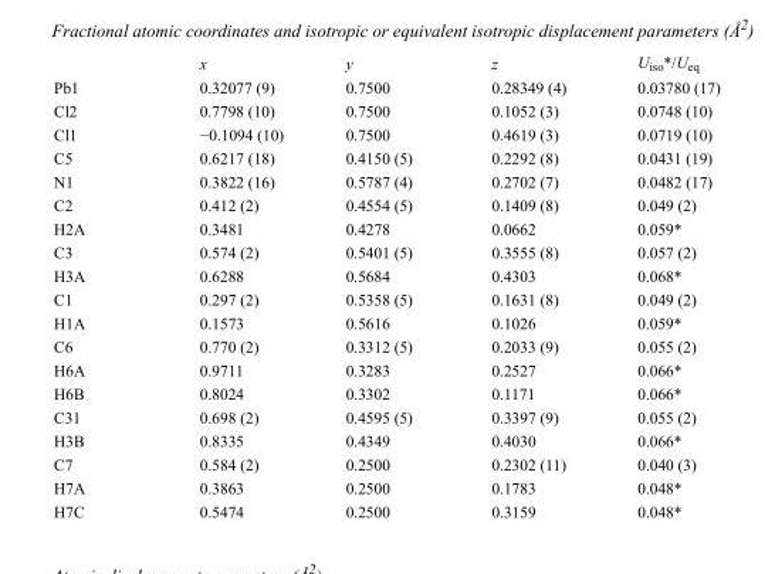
<table><thead><tr><td></td><td>x</td><td>y</td><td>z</td><td>U<sub>iso</sub>*/U<sub>eq</sub></td></tr></thead><tbody><tr><td>Pb1</td><td>0.32077 (9)</td><td>0.7500</td><td>0.28349 (4)</td><td>0.03780 (17)</td></tr><tr><td>Cl2</td><td>0.7798 (10)</td><td>0.7500</td><td>0.1052 (3)</td><td>0.0748 (10)</td></tr><tr><td>Cl1</td><td>−0.1094 (10)</td><td>0.7500</td><td>0.4619 (3)</td><td>0.0719 (10)</td></tr><tr><td>C5</td><td>0.6217 (18)</td><td>0.4150 (5)</td><td>0.2292 (8)</td><td>0.0431 (19)</td></tr><tr><td>N1</td><td>0.3822 (16)</td><td>0.5787 (4)</td><td>0.2702 (7)</td><td>0.0482 (17)</td></tr><tr><td>C2</td><td>0.412 (2)</td><td>0.4554 (5)</td><td>0.1409 (8)</td><td>0.049 (2)</td></tr><tr><td>H2A</td><td>0.3481</td><td>0.4278</td><td>0.0662</td><td>0.059*</td></tr><tr><td>C3</td><td>0.574 (2)</td><td>0.5401 (5)</td><td>0.3555 (8)</td><td>0.057 (2)</td></tr><tr><td>H3A</td><td>0.6288</td><td>0.5684</td><td>0.4303</td><td>0.068*</td></tr><tr><td>C1</td><td>0.297 (2)</td><td>0.5358 (5)</td><td>0.1631 (8)</td><td>0.049 (2)</td></tr><tr><td>H1A</td><td>0.1573</td><td>0.5616</td><td>0.1026</td><td>0.059*</td></tr><tr><td>C6</td><td>0.770 (2)</td><td>0.3312 (5)</td><td>0.2033 (9)</td><td>0.055 (2)</td></tr><tr><td>H6A</td><td>0.9711</td><td>0.3283</td><td>0.2527</td><td>0.066*</td></tr><tr><td>H6B</td><td>0.8024</td><td>0.3302</td><td>0.1171</td><td>0.066*</td></tr><tr><td>C31</td><td>0.698 (2)</td><td>0.4595 (5)</td><td>0.3397 (9)</td><td>0.055 (2)</td></tr><tr><td>H3B</td><td>0.8335</td><td>0.4349</td><td>0.4030</td><td>0.066*</td></tr><tr><td>C7</td><td>0.584 (2)</td><td>0.2500</td><td>0.2302 (11)</td><td>0.040 (3)</td></tr><tr><td>H7A</td><td>0.3863</td><td>0.2500</td><td>0.1783</td><td>0.048*</td></tr><tr><td>H7C</td><td>0.5474</td><td>0.2500</td><td>0.3159</td><td>0.048*</td></tr></tbody></table>